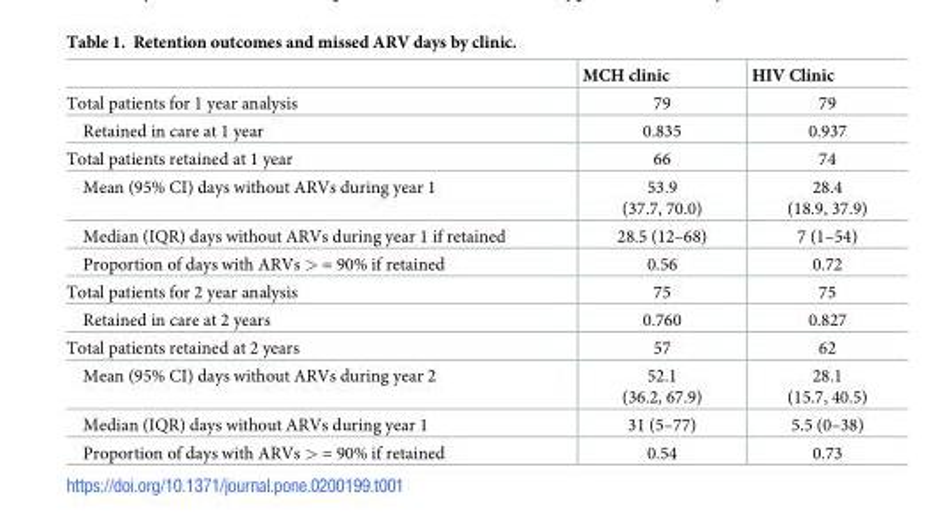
<table><thead><tr><td></td><td>MCH clinic</td><td>HIV Clinic</td></tr></thead><tbody><tr><td>Total patients for 1 year analysis</td><td>79</td><td>79</td></tr><tr><td>Retained in care at 1 year</td><td>0.835</td><td>0.937</td></tr><tr><td>Total patients retained at 1 year</td><td>66</td><td>74</td></tr><tr><td>Mean (95% CI) days without ARVs during year 1</td><td>53.9 (37.7, 70.0)</td><td>28.4 (18.9, 37.9)</td></tr><tr><td>Median (IQR) days without ARVs during year 1 if retained</td><td>28.5 (12–68)</td><td>7 (1–54)</td></tr><tr><td>Proportion of days with ARVs &gt; = 90% if retained</td><td>0.56</td><td>0.72</td></tr><tr><td>Total patients for 2 year analysis</td><td>75</td><td>75</td></tr><tr><td>Retained in care at 2 years</td><td>0.760</td><td>0.827</td></tr><tr><td>Total patients retained at 2 years</td><td>57</td><td>62</td></tr><tr><td>Mean (95% CI) days without ARVs during year 2</td><td>52.1 (36.2, 67.9)</td><td>28.1 (15.7, 40.5)</td></tr><tr><td>Median (IQR) days without ARVs during year 1</td><td>31 (5–77)</td><td>5.5 (0–38)</td></tr><tr><td>Proportion of days with ARVs &gt; = 90% if retained</td><td>0.54</td><td>0.73</td></tr></tbody></table>